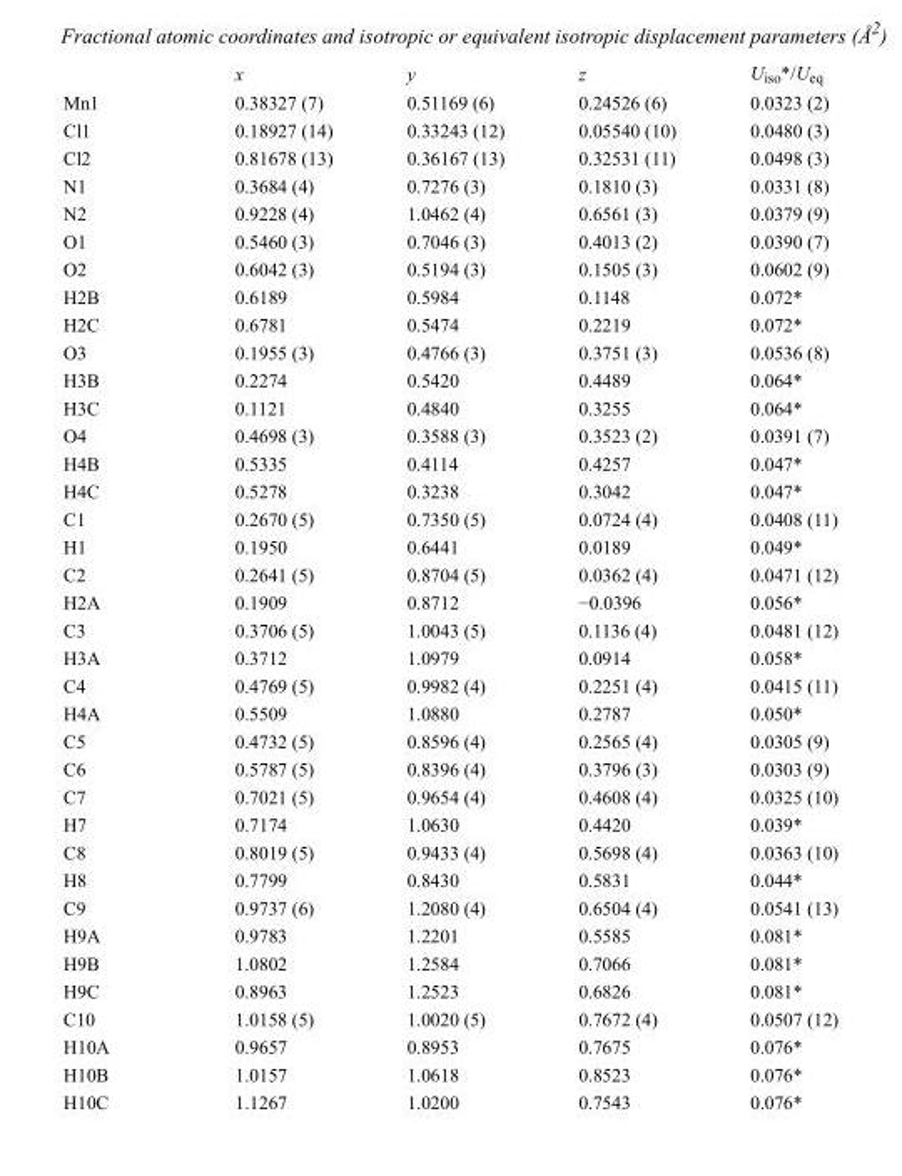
<table><thead><tr><td></td><td>x</td><td>y</td><td>z</td><td>U<sub>iso</sub>*/U<sub>eq</sub></td></tr></thead><tbody><tr><td>Mn1</td><td>0.38327 (7)</td><td>0.51169 (6)</td><td>0.24526 (6)</td><td>0.0323 (2)</td></tr><tr><td>Cl1</td><td>0.18927 (14)</td><td>0.33243 (12)</td><td>0.05540 (10)</td><td>0.0480 (3)</td></tr><tr><td>Cl2</td><td>0.81678 (13)</td><td>0.36167 (13)</td><td>0.32531 (11)</td><td>0.0498 (3)</td></tr><tr><td>N1</td><td>0.3684 (4)</td><td>0.7276 (3)</td><td>0.1810 (3)</td><td>0.0331 (8)</td></tr><tr><td>N2</td><td>0.9228 (4)</td><td>1.0462 (4)</td><td>0.6561 (3)</td><td>0.0379 (9)</td></tr><tr><td>O1</td><td>0.5460 (3)</td><td>0.7046 (3)</td><td>0.4013 (2)</td><td>0.0390 (7)</td></tr><tr><td>O2</td><td>0.6042 (3)</td><td>0.5194 (3)</td><td>0.1505 (3)</td><td>0.0602 (9)</td></tr><tr><td>H2B</td><td>0.6189</td><td>0.5984</td><td>0.1148</td><td>0.072*</td></tr><tr><td>H2C</td><td>0.6781</td><td>0.5474</td><td>0.2219</td><td>0.072*</td></tr><tr><td>O3</td><td>0.1955 (3)</td><td>0.4766 (3)</td><td>0.3751 (3)</td><td>0.0536 (8)</td></tr><tr><td>H3B</td><td>0.2274</td><td>0.5420</td><td>0.4489</td><td>0.064*</td></tr><tr><td>H3C</td><td>0.1121</td><td>0.4840</td><td>0.3255</td><td>0.064*</td></tr><tr><td>O4</td><td>0.4698 (3)</td><td>0.3588 (3)</td><td>0.3523 (2)</td><td>0.0391 (7)</td></tr><tr><td>H4B</td><td>0.5335</td><td>0.4114</td><td>0.4257</td><td>0.047*</td></tr><tr><td>H4C</td><td>0.5278</td><td>0.3238</td><td>0.3042</td><td>0.047*</td></tr><tr><td>C1</td><td>0.2670 (5)</td><td>0.7350 (5)</td><td>0.0724 (4)</td><td>0.0408 (11)</td></tr><tr><td>H1</td><td>0.1950</td><td>0.6441</td><td>0.0189</td><td>0.049*</td></tr><tr><td>C2</td><td>0.2641 (5)</td><td>0.8704 (5)</td><td>0.0362 (4)</td><td>0.0471 (12)</td></tr><tr><td>H2A</td><td>0.1909</td><td>0.8712</td><td>−0.0396</td><td>0.056*</td></tr><tr><td>C3</td><td>0.3706 (5)</td><td>1.0043 (5)</td><td>0.1136 (4)</td><td>0.0481 (12)</td></tr><tr><td>H3A</td><td>0.3712</td><td>1.0979</td><td>0.0914</td><td>0.058*</td></tr><tr><td>C4</td><td>0.4769 (5)</td><td>0.9982 (4)</td><td>0.2251 (4)</td><td>0.0415 (11)</td></tr><tr><td>H4A</td><td>0.5509</td><td>1.0880</td><td>0.2787</td><td>0.050*</td></tr><tr><td>C5</td><td>0.4732 (5)</td><td>0.8596 (4)</td><td>0.2565 (4)</td><td>0.0305 (9)</td></tr><tr><td>C6</td><td>0.5787 (5)</td><td>0.8396 (4)</td><td>0.3796 (3)</td><td>0.0303 (9)</td></tr><tr><td>C7</td><td>0.7021 (5)</td><td>0.9654 (4)</td><td>0.4608 (4)</td><td>0.0325 (10)</td></tr><tr><td>H7</td><td>0.7174</td><td>1.0630</td><td>0.4420</td><td>0.039*</td></tr><tr><td>C8</td><td>0.8019 (5)</td><td>0.9433 (4)</td><td>0.5698 (4)</td><td>0.0363 (10)</td></tr><tr><td>H8</td><td>0.7799</td><td>0.8430</td><td>0.5831</td><td>0.044*</td></tr><tr><td>C9</td><td>0.9737 (6)</td><td>1.2080 (4)</td><td>0.6504 (4)</td><td>0.0541 (13)</td></tr><tr><td>H9A</td><td>0.9783</td><td>1.2201</td><td>0.5585</td><td>0.081*</td></tr><tr><td>H9B</td><td>1.0802</td><td>1.2584</td><td>0.7066</td><td>0.081*</td></tr><tr><td>H9C</td><td>0.8963</td><td>1.2523</td><td>0.6826</td><td>0.081*</td></tr><tr><td>C10</td><td>1.0158 (5)</td><td>1.0020 (5)</td><td>0.7672 (4)</td><td>0.0507 (12)</td></tr><tr><td>H10A</td><td>0.9657</td><td>0.8953</td><td>0.7675</td><td>0.076*</td></tr><tr><td>H10B</td><td>1.0157</td><td>1.0618</td><td>0.8523</td><td>0.076*</td></tr><tr><td>H10C</td><td>1.1267</td><td>1.0200</td><td>0.7543</td><td>0.076*</td></tr></tbody></table>